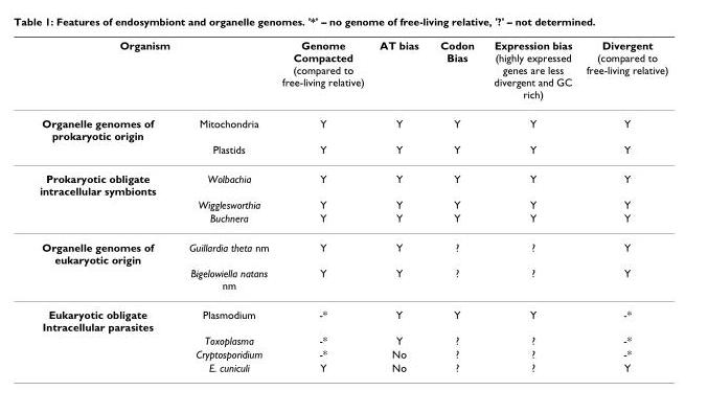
<table><thead><tr><td colspan="2">Organism</td><td rowspan="2">Genome Compacted (compared to free-living relative) Y</td><td rowspan="2">AT bias Y</td><td rowspan="2">Codon Bias Y</td><td rowspan="2">Expression bias (highly expressed genes are less divergent and GC rich) Y</td><td rowspan="2">Divergent (compared to free-living relative) Y</td></tr><tr><td>Organelle genomes of prokaryotic origin</td><td>Mitochondria</td></tr></thead><tbody><tr><td></td><td>Plastids</td><td>Y</td><td>Y</td><td>Y</td><td>Y</td><td>Y</td></tr><tr><td rowspan="3">Prokaryotic obligate intracellular symbionts</td><td>Wolbachia</td><td>Y</td><td>Y</td><td>Y</td><td>Y</td><td>Y</td></tr><tr><td>Wigglesworthia</td><td>Y</td><td>Y</td><td>Y</td><td>Y</td><td>Y</td></tr><tr><td>Buchnera</td><td>Y</td><td>Y</td><td>Y</td><td>Y</td><td>Y</td></tr><tr><td rowspan="2">Organelle genomes of eukaryotic origin</td><td>Guillardia theta nm</td><td>Y</td><td>Y</td><td>?</td><td>?</td><td>Y</td></tr><tr><td>Bigelowiella natans nm</td><td>Y</td><td>Y</td><td>?</td><td>?</td><td>Y</td></tr><tr><td rowspan="4">Eukaryotic obligate Intracellular parasites</td><td>Plasmodium</td><td>-*</td><td>Y</td><td>Y</td><td>Y</td><td>-*</td></tr><tr><td>Toxoplasma</td><td>-*</td><td>Y</td><td>?</td><td>?</td><td>-*</td></tr><tr><td>Cryptosporidium</td><td>-*</td><td>No</td><td>?</td><td>?</td><td>-*</td></tr><tr><td>E. cuniculi</td><td>Y</td><td>No</td><td>?</td><td>?</td><td>Y</td></tr></tbody></table>